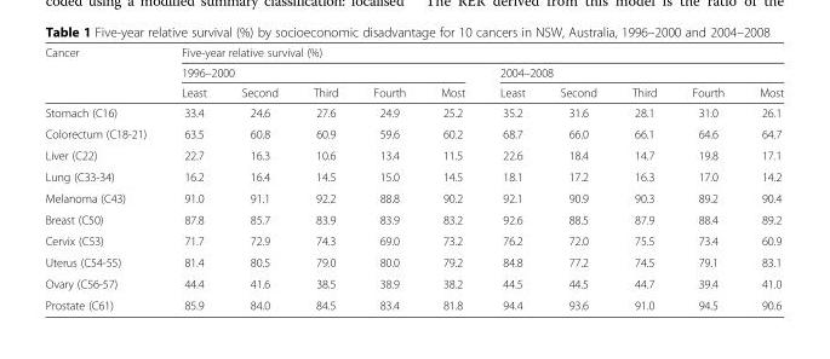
<table><thead><tr><td rowspan="3">Cancer</td><td colspan="10">Five-year relative survival (%)</td></tr><tr><td colspan="5">1996–2000</td><td colspan="5">2004–2008</td></tr><tr><td>Least</td><td>Second</td><td>Third</td><td>Fourth</td><td>Most</td><td>Least</td><td>Second</td><td>Third</td><td>Fourth</td><td>Most</td></tr></thead><tbody><tr><td>Stomach (C16)</td><td>33.4</td><td>24.6</td><td>27.6</td><td>24.9</td><td>25.2</td><td>35.2</td><td>31.6</td><td>28.1</td><td>31.0</td><td>26.1</td></tr><tr><td>Colorectum (C18-21)</td><td>63.5</td><td>60.8</td><td>60.9</td><td>59.6</td><td>60.2</td><td>68.7</td><td>66.0</td><td>66.1</td><td>64.6</td><td>64.7</td></tr><tr><td>Liver (C22)</td><td>22.7</td><td>16.3</td><td>10.6</td><td>13.4</td><td>11.5</td><td>22.6</td><td>18.4</td><td>14.7</td><td>19.8</td><td>17.1</td></tr><tr><td>Lung (C33-34)</td><td>16.2</td><td>16.4</td><td>14.5</td><td>15.0</td><td>14.5</td><td>18.1</td><td>17.2</td><td>16.3</td><td>17.0</td><td>14.2</td></tr><tr><td>Melanoma (C43)</td><td>91.0</td><td>91.1</td><td>92.2</td><td>88.8</td><td>90.2</td><td>92.1</td><td>90.9</td><td>90.3</td><td>89.2</td><td>90.4</td></tr><tr><td>Breast (C50)</td><td>87.8</td><td>85.7</td><td>83.9</td><td>83.9</td><td>83.2</td><td>92.6</td><td>88.5</td><td>87.9</td><td>88.4</td><td>89.2</td></tr><tr><td>Cervix (C53)</td><td>71.7</td><td>72.9</td><td>74.3</td><td>69.0</td><td>73.2</td><td>76.2</td><td>72.0</td><td>75.5</td><td>73.4</td><td>60.9</td></tr><tr><td>Uterus (C54-55)</td><td>81.4</td><td>80.5</td><td>79.0</td><td>80.0</td><td>79.2</td><td>84.8</td><td>77.2</td><td>74.5</td><td>79.1</td><td>83.1</td></tr><tr><td>Ovary (C56-57)</td><td>44.4</td><td>41.6</td><td>38.5</td><td>38.9</td><td>38.2</td><td>44.5</td><td>44.5</td><td>44.7</td><td>39.4</td><td>41.0</td></tr><tr><td>Prostate (C61)</td><td>85.9</td><td>84.0</td><td>84.5</td><td>83.4</td><td>81.8</td><td>94.4</td><td>93.6</td><td>91.0</td><td>94.5</td><td>90.6</td></tr></tbody></table>